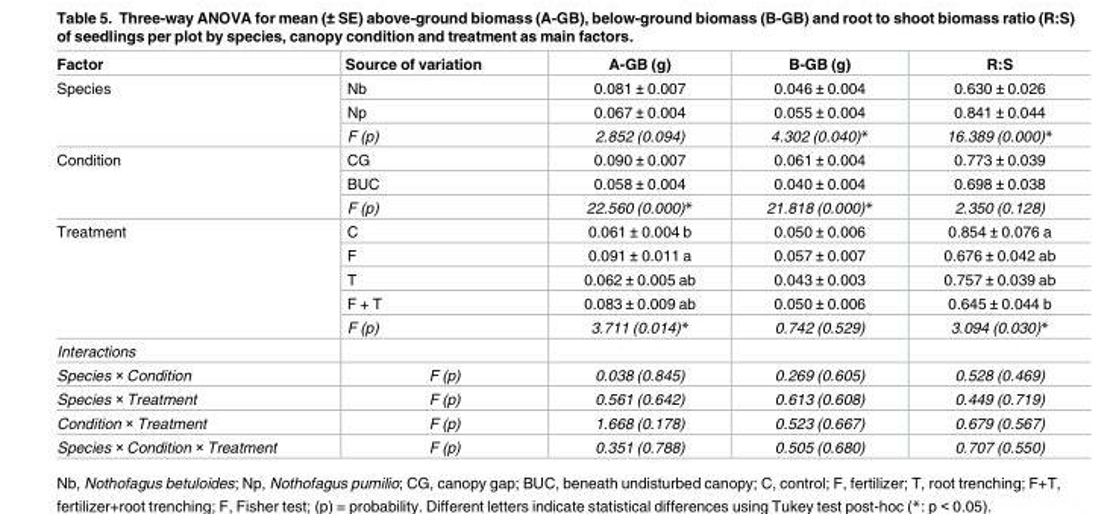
<table><thead><tr><td>Factor</td><td>Source of variation</td><td>A-GB (g)</td><td>B-GB (g)</td><td>R:S</td></tr></thead><tbody><tr><td rowspan="3">Species</td><td>Nb</td><td>0.081 ± 0.007</td><td>0.046 ± 0.004</td><td>0.630 ± 0.026</td></tr><tr><td>Np</td><td>0.067 ± 0.004</td><td>0.055 ± 0.004</td><td>0.841 ± 0.044</td></tr><tr><td>F (p)</td><td>2.852 (0.094)</td><td>4.302 (0.040)*</td><td>16.389 (0.000)*</td></tr><tr><td rowspan="3">Condition</td><td>CG</td><td>0.090 ± 0.007</td><td>0.061 ± 0.004</td><td>0.773 ± 0.039</td></tr><tr><td>BUC</td><td>0.058 ± 0.004</td><td>0.040 ± 0.004</td><td>0.698 ± 0.038</td></tr><tr><td>F (p)</td><td>22.560 (0.000)*</td><td>21.818 (0.000)*</td><td>2.350 (0.128)</td></tr><tr><td rowspan="5">Treatment</td><td>C</td><td>0.061 ± 0.004 b</td><td>0.050 ± 0.006</td><td>0.854 ± 0.076 a</td></tr><tr><td>F</td><td>0.091 ± 0.011 a</td><td>0.057 ± 0.007</td><td>0.676 ± 0.042 ab</td></tr><tr><td>T</td><td>0.062 ± 0.005 ab</td><td>0.043 ± 0.003</td><td>0.757 ± 0.039 ab</td></tr><tr><td>F + T</td><td>0.083 ± 0.009 ab</td><td>0.050 ± 0.006</td><td>0.645 ± 0.044 b</td></tr><tr><td>F (p)</td><td>3.711 (0.014)*</td><td>0.742 (0.529)</td><td>3.094 (0.030)*</td></tr><tr><td colspan="5">Interactions</td></tr><tr><td>Species × Condition</td><td>F (p)</td><td>0.038 (0.845)</td><td>0.269 (0.605)</td><td>0.528 (0.469)</td></tr><tr><td>Species × Treatment</td><td>F (p)</td><td>0.561 (0.642)</td><td>0.613 (0.608)</td><td>0.449 (0.719)</td></tr><tr><td>Condition × Treatment</td><td>F (p)</td><td>1.668 (0.178)</td><td>0.523 (0.667)</td><td>0.679 (0.567)</td></tr><tr><td>Species × Condition × Treatment</td><td>F (p)</td><td>0.351 (0.788)</td><td>0.505 (0.680)</td><td>0.707 (0.550)</td></tr></tbody></table>